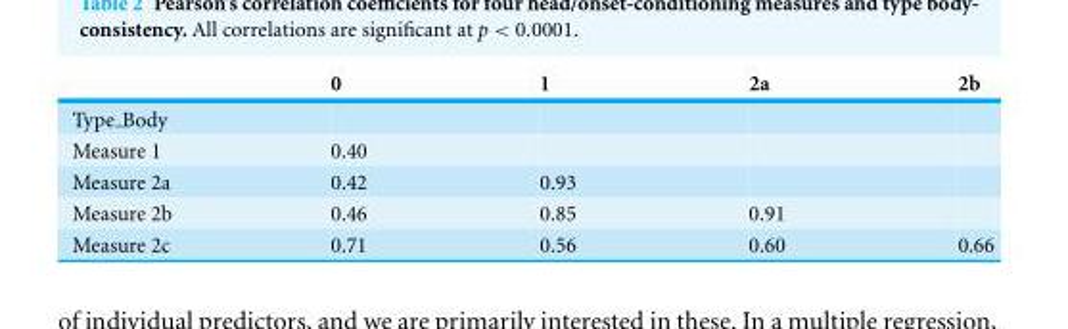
<table><thead><tr><td></td><td>0</td><td>1</td><td>2a</td><td>2b</td></tr></thead><tbody><tr><td colspan="5">Type Body</td></tr><tr><td>Measure 1</td><td>0.40</td><td></td><td></td><td></td></tr><tr><td>Measure 2a</td><td>0.42</td><td>0.93</td><td></td><td></td></tr><tr><td>Measure 2b</td><td>0.46</td><td>0.85</td><td>0.91</td><td></td></tr><tr><td>Measure 2c</td><td>0.71</td><td>0.56</td><td>0.60</td><td>0.66</td></tr></tbody></table>